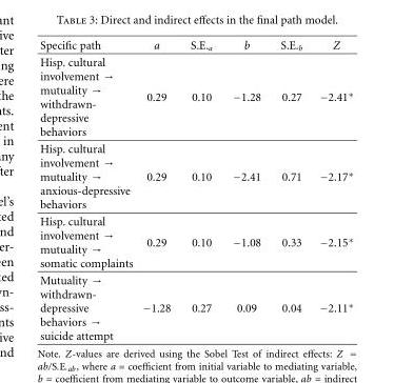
<table><thead><tr><td>Specific path</td><td>a</td><td>S.E.a</td><td>b</td><td>S.E.b</td><td>Z</td></tr></thead><tbody><tr><td>Hisp. cultural involvement → mutuality → withdrawn- depressive behaviors</td><td>0.29</td><td>0.10</td><td>−1.28</td><td>0.27</td><td>−2.41∗</td></tr><tr><td>Hisp. cultural involvement → mutuality → anxious-depressive behaviors</td><td>0.29</td><td>0.10</td><td>−2.41</td><td>0.71</td><td>−2.17∗</td></tr><tr><td>Hisp. cultural involvement → mutuality → somatic complaints</td><td>0.29</td><td>0.10</td><td>−1.08</td><td>0.33</td><td>−2.15∗</td></tr><tr><td>Mutuality → withdrawn- depressive behaviors → suicide attempt</td><td>−1.28</td><td>0.27</td><td>0.09</td><td>0.04</td><td>−2.11∗</td></tr></tbody></table>